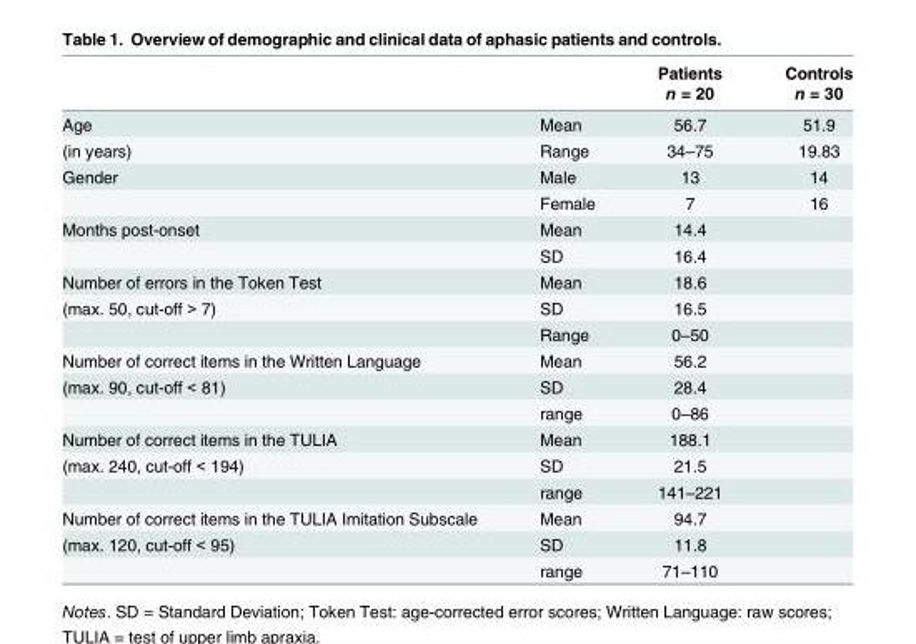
<table><thead><tr><td rowspan="2"></td><td rowspan="2"></td><td rowspan="2">Patients n = 20</td><td rowspan="2">Controls n = 30</td></tr><tr></tr></thead><tbody><tr><td>Age</td><td>Mean</td><td>56.7</td><td>51.9</td></tr><tr><td>(in years)</td><td>Range</td><td>34–75</td><td>19.83</td></tr><tr><td rowspan="2">Gender</td><td>Male</td><td>13</td><td>14</td></tr><tr><td>Female</td><td>7</td><td>16</td></tr><tr><td rowspan="2">Months post-onset</td><td>Mean</td><td>14.4</td><td></td></tr><tr><td>SD</td><td>16.4</td><td></td></tr><tr><td>Number of errors in the Token Test</td><td>Mean</td><td>18.6</td><td></td></tr><tr><td rowspan="2">(max. 50, cut-off &gt; 7)</td><td>SD</td><td>16.5</td><td></td></tr><tr><td>Range</td><td>0–50</td><td></td></tr><tr><td>Number of correct items in the Written Language</td><td>Mean</td><td>56.2</td><td></td></tr><tr><td rowspan="2">(max. 90, cut-off &lt; 81)</td><td>SD</td><td>28.4</td><td></td></tr><tr><td>range</td><td>0–86</td><td></td></tr><tr><td>Number of correct items in the TULIA</td><td>Mean</td><td>188.1</td><td></td></tr><tr><td rowspan="2">(max. 240, cut-off &lt; 194)</td><td>SD</td><td>21.5</td><td></td></tr><tr><td>range</td><td>141–221</td><td></td></tr><tr><td>Number of correct items in the TULIA Imitation Subscale</td><td>Mean</td><td>94.7</td><td></td></tr><tr><td rowspan="2">(max. 120, cut-off &lt; 95)</td><td>SD</td><td>11.8</td><td></td></tr><tr><td>range</td><td>71–110</td><td></td></tr></tbody></table>